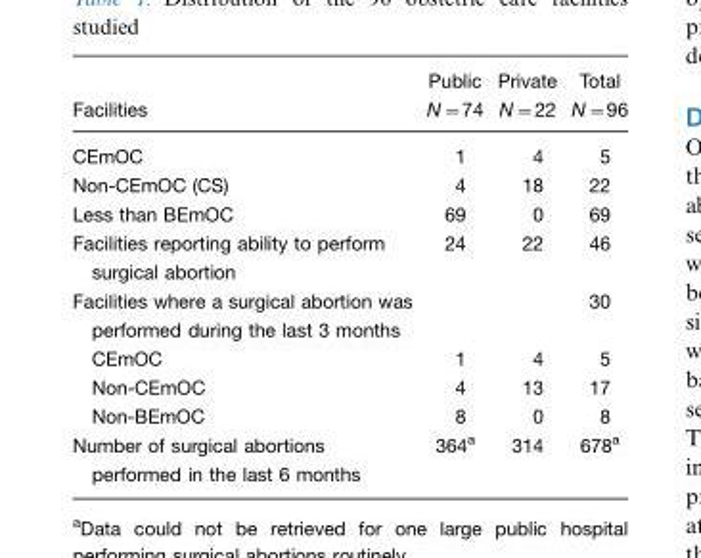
<table><thead><tr><td>Facilities</td><td>Public N=74</td><td>Private N=22</td><td>Total N=96</td></tr></thead><tbody><tr><td>CEmOC</td><td>1</td><td>4</td><td>5</td></tr><tr><td>Non-CEmOC (CS)</td><td>4</td><td>18</td><td>22</td></tr><tr><td>Less than BEmOC</td><td>69</td><td>0</td><td>69</td></tr><tr><td>Facilities reporting ability to perform surgical abortion</td><td>24</td><td>22</td><td>46</td></tr><tr><td>Facilities where a surgical abortion was performed during the last 3 months</td><td></td><td></td><td>30</td></tr><tr><td>CEmOC</td><td>1</td><td>4</td><td>5</td></tr><tr><td>Non-CEmOC</td><td>4</td><td>13</td><td>17</td></tr><tr><td>Non-BEmOC</td><td>8</td><td>0</td><td>8</td></tr><tr><td>Number of surgical abortions performed in the last 6 months</td><td>364<sup>a</sup></td><td>314</td><td>678<sup>a</sup></td></tr></tbody></table>